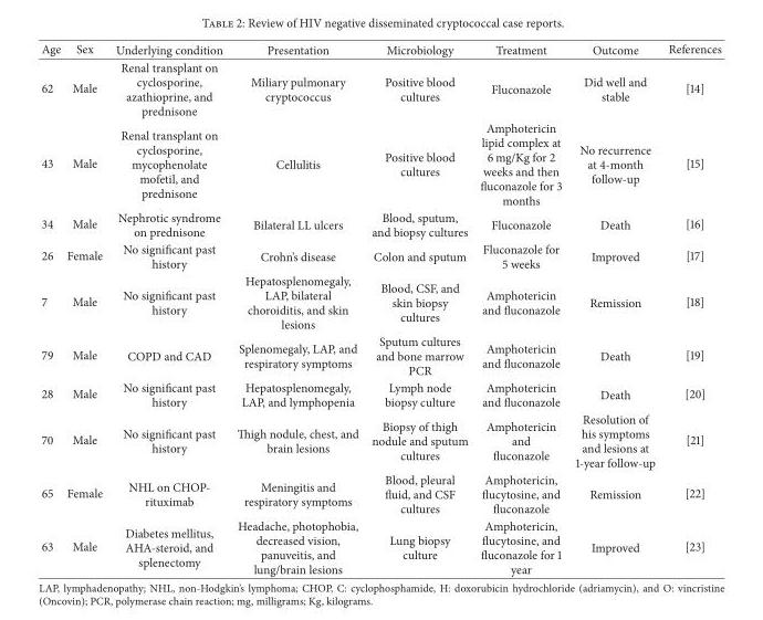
<table><thead><tr><td>Age</td><td>Sex</td><td>Underlying condition</td><td>Presentation</td><td>Microbiology</td><td>Treatment</td><td>Outcome</td><td>References</td></tr></thead><tbody><tr><td>62</td><td>Male</td><td>Renal transplant on cyclosporine, azathioprine, and prednisone</td><td>Miliary pulmonary cryptococcus</td><td>Positive blood cultures</td><td>Fluconazole</td><td>Did well and stable</td><td>[14]</td></tr><tr><td>43</td><td>Male</td><td>Renal transplant on cyclosporine, mycophenolate mofetil, and prednisone</td><td>Cellulitis</td><td>Positive blood cultures</td><td>Amphotericin lipid complex at 6 mg/Kg for 2 weeks and then fluconazole for 3 months</td><td>No recurrence at 4-month follow-up</td><td>[15]</td></tr><tr><td>34</td><td>Male</td><td>Nephrotic syndrome on prednisone</td><td>Bilateral LL ulcers</td><td>Blood, sputum, and biopsy cultures</td><td>Fluconazole</td><td>Death</td><td>[16]</td></tr><tr><td>26</td><td>Female</td><td>No significant past history</td><td>Crohn’s disease</td><td>Colon and sputum</td><td>Fluconazole for 5 weeks</td><td>Improved</td><td>[17]</td></tr><tr><td>7</td><td>Male</td><td>No significant past history</td><td>Hepatosplenomegaly, LAP, bilateral choroiditis, and skin lesions</td><td>Blood, CSF, and skin biopsy cultures</td><td>Amphotericin and fluconazole</td><td>Remission</td><td>[18]</td></tr><tr><td>79</td><td>Male</td><td>COPD and CAD</td><td>Splenomegaly, LAP, and respiratory symptoms</td><td>Sputum cultures and bone marrow PCR</td><td>Amphotericin and fluconazole</td><td>Death</td><td>[19]</td></tr><tr><td>28</td><td>Male</td><td>No significant past history</td><td>Hepatosplenomegaly, LAP, and lymphopenia</td><td>Lymph node biopsy culture</td><td>Amphotericin and fluconazole</td><td>Death</td><td>[20]</td></tr><tr><td>70</td><td>Male</td><td>No significant past history</td><td>Thigh nodule, chest, and brain lesions</td><td>Biopsy of thigh nodule and sputum cultures</td><td>Amphotericin and fluconazole</td><td>Resolution of his symptoms and lesions at 1-year follow-up</td><td>[21]</td></tr><tr><td>65</td><td>Female</td><td>NHL on CHOP- rituximab</td><td>Meningitis and respiratory symptoms</td><td>Blood, pleural fluid, and CSF cultures</td><td>Amphotericin, flucytosine, and fluconazole</td><td>Remission</td><td>[22]</td></tr><tr><td>63</td><td>Male</td><td>Diabetes mellitus, AHA-steroid, and splenectomy</td><td>Headache, photophobia, decreased vision, panuveitis, and lung/brain lesions</td><td>Lung biopsy culture</td><td>Amphotericin, flucytosine, and fluconazole for 1 year</td><td>Improved</td><td>[23]</td></tr></tbody></table>